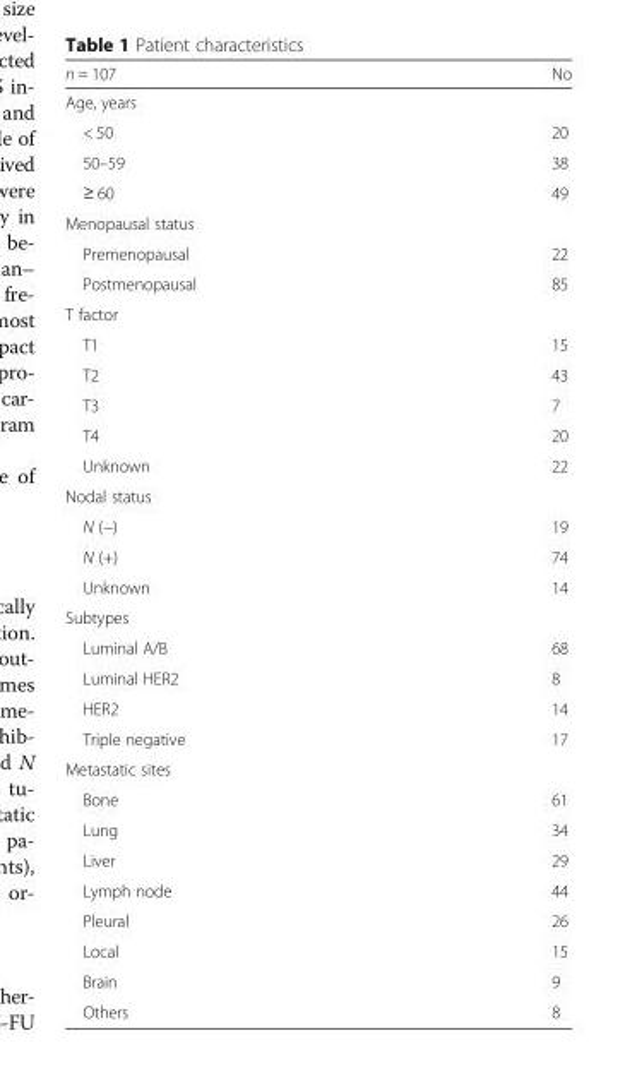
<table><thead><tr><td>n = 107</td><td>No</td></tr></thead><tbody><tr><td colspan="2">Age, years</td></tr><tr><td>&lt; 50</td><td>20</td></tr><tr><td>50–59</td><td>38</td></tr><tr><td>≥ 60</td><td>49</td></tr><tr><td colspan="2">Menopausal status</td></tr><tr><td>Premenopausal</td><td>22</td></tr><tr><td>Postmenopausal</td><td>85</td></tr><tr><td colspan="2">T factor</td></tr><tr><td>T1</td><td>15</td></tr><tr><td>T2</td><td>43</td></tr><tr><td>T3</td><td>7</td></tr><tr><td>T4</td><td>20</td></tr><tr><td>Unknown</td><td>22</td></tr><tr><td colspan="2">Nodal status</td></tr><tr><td>N (−)</td><td>19</td></tr><tr><td>N (+)</td><td>74</td></tr><tr><td>Unknown</td><td>14</td></tr><tr><td colspan="2">Subtypes</td></tr><tr><td>Luminal A/B</td><td>68</td></tr><tr><td>Luminal HER2</td><td>8</td></tr><tr><td>HER2</td><td>14</td></tr><tr><td>Triple negative</td><td>17</td></tr><tr><td colspan="2">Metastatic sites</td></tr><tr><td>Bone</td><td>61</td></tr><tr><td>Lung</td><td>34</td></tr><tr><td>Liver</td><td>29</td></tr><tr><td>Lymph node</td><td>44</td></tr><tr><td>Pleural</td><td>26</td></tr><tr><td>Local</td><td>15</td></tr><tr><td>Brain</td><td>9</td></tr><tr><td>Others</td><td>8</td></tr></tbody></table>